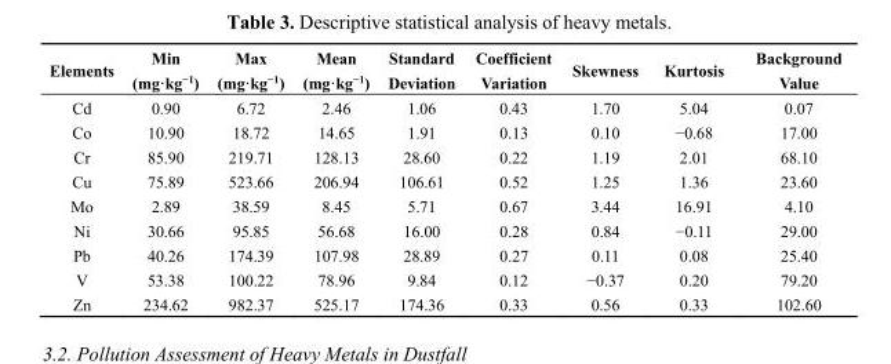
<table><thead><tr><td>Elements</td><td>Min (mg·kg<sup>−1</sup>)</td><td>Max (mg·kg<sup>−1</sup>)</td><td>Mean (mg·kg<sup>−1</sup>)</td><td>Standard Deviation</td><td>Coefficient Variation</td><td>Skewness</td><td>Kurtosis</td><td>Background Value</td></tr></thead><tbody><tr><td>Cd</td><td>0.90</td><td>6.72</td><td>2.46</td><td>1.06</td><td>0.43</td><td>1.70</td><td>5.04</td><td>0.07</td></tr><tr><td>Co</td><td>10.90</td><td>18.72</td><td>14.65</td><td>1.91</td><td>0.13</td><td>0.10</td><td>−0.68</td><td>17.00</td></tr><tr><td>Cr</td><td>85.90</td><td>219.71</td><td>128.13</td><td>28.60</td><td>0.22</td><td>1.19</td><td>2.01</td><td>68.10</td></tr><tr><td>Cu</td><td>75.89</td><td>523.66</td><td>206.94</td><td>106.61</td><td>0.52</td><td>1.25</td><td>1.36</td><td>23.60</td></tr><tr><td>Mo</td><td>2.89</td><td>38.59</td><td>8.45</td><td>5.71</td><td>0.67</td><td>3.44</td><td>16.91</td><td>4.10</td></tr><tr><td>Ni</td><td>30.66</td><td>95.85</td><td>56.68</td><td>16.00</td><td>0.28</td><td>0.84</td><td>−0.11</td><td>29.00</td></tr><tr><td>Pb</td><td>40.26</td><td>174.39</td><td>107.98</td><td>28.89</td><td>0.27</td><td>0.11</td><td>0.08</td><td>25.40</td></tr><tr><td>V</td><td>53.38</td><td>100.22</td><td>78.96</td><td>9.84</td><td>0.12</td><td>−0.37</td><td>0.20</td><td>79.20</td></tr><tr><td>Zn</td><td>234.62</td><td>982.37</td><td>525.17</td><td>174.36</td><td>0.33</td><td>0.56</td><td>0.33</td><td>102.60</td></tr></tbody></table>